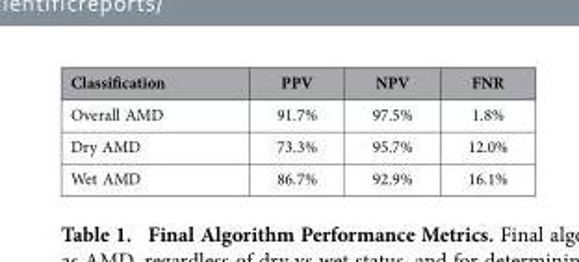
<table><thead><tr><td>Classification</td><td>PPV</td><td>NPV</td><td>FNR</td></tr></thead><tbody><tr><td>Overall AMD</td><td>91.7%</td><td>97.5%</td><td>1.8%</td></tr><tr><td>Dry AMD</td><td>73.3%</td><td>95.7%</td><td>12.0%</td></tr><tr><td>Wet AMD</td><td>86.7%</td><td>92.9%</td><td>16.1%</td></tr></tbody></table>